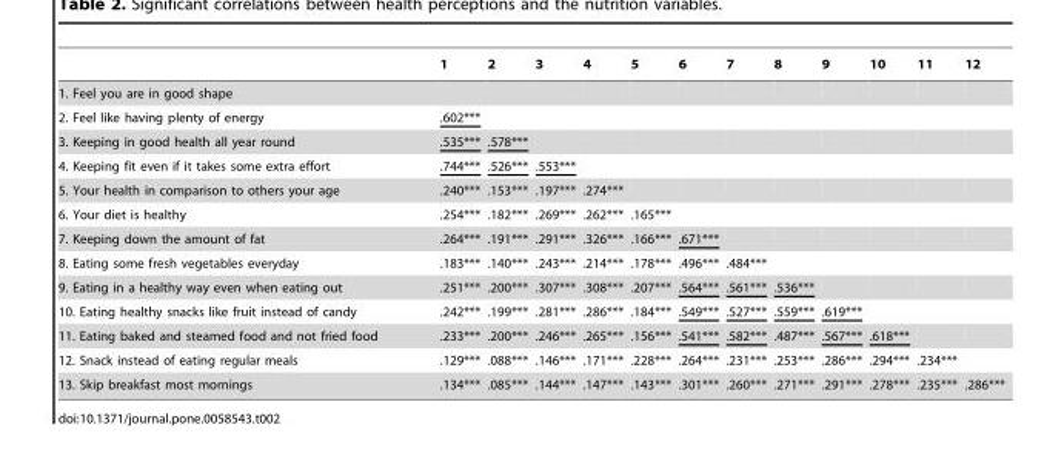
<table><thead><tr><td></td><td>1</td><td>2</td><td>3</td><td>4</td><td>5</td><td>6</td><td>7</td><td>8</td><td>9</td><td>10</td><td>11</td><td>12</td></tr></thead><tbody><tr><td colspan="13">1. Feel you are in good shape</td></tr><tr><td>2. Feel like having plenty of energy</td><td>.602***</td><td></td><td></td><td></td><td></td><td></td><td></td><td></td><td></td><td></td><td></td><td></td></tr><tr><td>3. Keeping in good health all year round</td><td>.535***</td><td>.578***</td><td></td><td></td><td></td><td></td><td></td><td></td><td></td><td></td><td></td><td></td></tr><tr><td>4. Keeping fit even if it takes some extra effort</td><td>.744***</td><td>.526***</td><td>.553***</td><td></td><td></td><td></td><td></td><td></td><td></td><td></td><td></td><td></td></tr><tr><td>5. Your health in comparison to others your age</td><td>.240***</td><td>.153***</td><td>.197***</td><td>.274***</td><td></td><td></td><td></td><td></td><td></td><td></td><td></td><td></td></tr><tr><td>6. Your diet is healthy</td><td>.254***</td><td>.182***</td><td>.269***</td><td>.262***</td><td>.165***</td><td></td><td></td><td></td><td></td><td></td><td></td><td></td></tr><tr><td>7. Keeping down the amount of fat</td><td>.264***</td><td>.191***</td><td>.291***</td><td>.326***</td><td>.166***</td><td>.671***</td><td></td><td></td><td></td><td></td><td></td><td></td></tr><tr><td>8. Eating some fresh vegetables everyday</td><td>.183***</td><td>.140***</td><td>.243***</td><td>.214***</td><td>.178***</td><td>.496***</td><td>.484***</td><td></td><td></td><td></td><td></td><td></td></tr><tr><td>9. Eating in a healthy way even when eating out</td><td>.251***</td><td>.200***</td><td>.307***</td><td>.308***</td><td>.207***</td><td>.564***</td><td>.561***</td><td>.536***</td><td></td><td></td><td></td><td></td></tr><tr><td>10. Eating healthy snacks like fruit instead of candy</td><td>.242***</td><td>.199***</td><td>.281***</td><td>.286***</td><td>.184***</td><td>.549***</td><td>.527***</td><td>.559***</td><td>.619***</td><td></td><td></td><td></td></tr><tr><td>11. Eating baked and steamed food and not fried food</td><td>.233***</td><td>.200***</td><td>.246***</td><td>.265***</td><td>.156***</td><td>.541***</td><td>.582***</td><td>.487***</td><td>.567***</td><td>.618***</td><td></td><td></td></tr><tr><td>12. Snack instead of eating regular meals</td><td>.129***</td><td>.088***</td><td>.146***</td><td>.171***</td><td>.228***</td><td>.264***</td><td>.231***</td><td>.253***</td><td>.286***</td><td>.294***</td><td>.234***</td><td></td></tr><tr><td>13. Skip breakfast most mornings</td><td>.134***</td><td>.085***</td><td>.144***</td><td>.147***</td><td>.143***</td><td>.301***</td><td>.260***</td><td>.271***</td><td>.291***</td><td>.278***</td><td>.235***</td><td>.286***</td></tr></tbody></table>